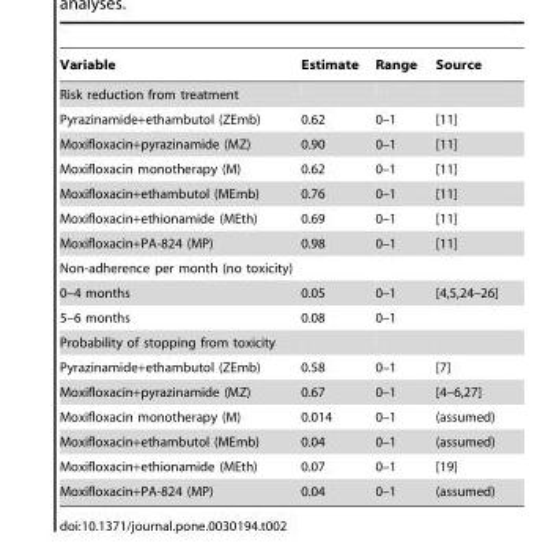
<table><thead><tr><td>Variable</td><td>Estimate</td><td>Range</td><td>Source</td></tr></thead><tbody><tr><td colspan="4">Risk reduction from treatment</td></tr><tr><td>Pyrazinamide+ethambutol (ZEmb)</td><td>0.62</td><td>0–1</td><td>[11]</td></tr><tr><td>Moxifloxacin+pyrazinamide (MZ)</td><td>0.90</td><td>0–1</td><td>[11]</td></tr><tr><td>Moxifloxacin monotherapy (M)</td><td>0.62</td><td>0–1</td><td>[11]</td></tr><tr><td>Moxifloxacin+ethambutol (MEmb)</td><td>0.76</td><td>0–1</td><td>[11]</td></tr><tr><td>Moxifloxacin+ethionamide (MEth)</td><td>0.69</td><td>0–1</td><td>[11]</td></tr><tr><td>Moxifloxacin+PA-824 (MP)</td><td>0.98</td><td>0–1</td><td>[11]</td></tr><tr><td colspan="4">Non-adherence per month (no toxicity)</td></tr><tr><td>0–4 months</td><td>0.05</td><td>0–1</td><td>[4,5,24–26]</td></tr><tr><td>5–6 months</td><td>0.08</td><td>0–1</td><td></td></tr><tr><td colspan="4">Probability of stopping from toxicity</td></tr><tr><td>Pyrazinamide+ethambutol (ZEmb)</td><td>0.58</td><td>0–1</td><td>[7]</td></tr><tr><td>Moxifloxacin+pyrazinamide (MZ)</td><td>0.67</td><td>0–1</td><td>[4–6,27]</td></tr><tr><td>Moxifloxacin monotherapy (M)</td><td>0.014</td><td>0–1</td><td>(assumed)</td></tr><tr><td>Moxifloxacin+ethambutol (MEmb)</td><td>0.04</td><td>0–1</td><td>(assumed)</td></tr><tr><td>Moxifloxacin+ethionamide (MEth)</td><td>0.07</td><td>0–1</td><td>[19]</td></tr><tr><td>Moxifloxacin+PA-824 (MP)</td><td>0.04</td><td>0–1</td><td>(assumed)</td></tr></tbody></table>